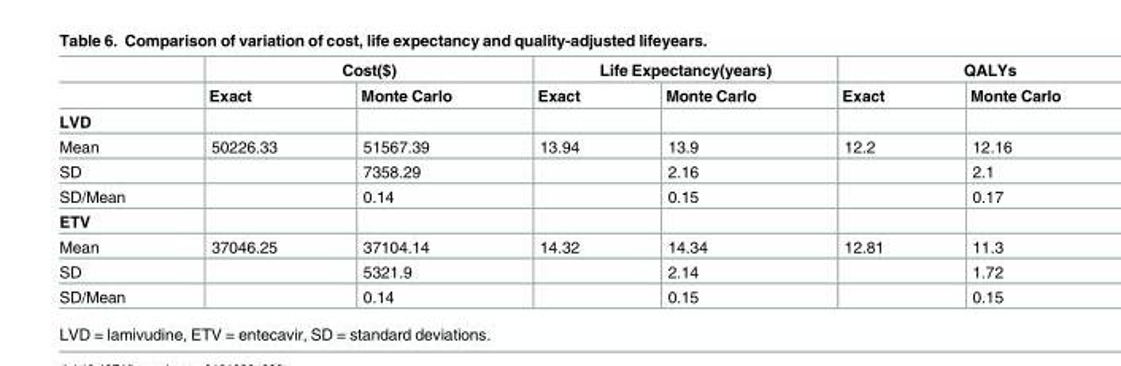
<table><thead><tr><td rowspan="2"></td><td colspan="2">Cost($)</td><td colspan="2">Life Expectancy(years)</td><td colspan="2">QALYs</td></tr><tr><td>Exact</td><td>Monte Carlo</td><td>Exact</td><td>Monte Carlo</td><td>Exact</td><td>Monte Carlo</td></tr></thead><tbody><tr><td colspan="7">LVD</td></tr><tr><td>Mean</td><td>50226.33</td><td>51567.39</td><td>13.94</td><td>13.9</td><td>12.2</td><td>12.16</td></tr><tr><td>SD</td><td></td><td>7358.29</td><td></td><td>2.16</td><td></td><td>2.1</td></tr><tr><td>SD/Mean</td><td></td><td>0.14</td><td></td><td>0.15</td><td></td><td>0.17</td></tr><tr><td colspan="7">ETV</td></tr><tr><td>Mean</td><td>37046.25</td><td>37104.14</td><td>14.32</td><td>14.34</td><td>12.81</td><td>11.3</td></tr><tr><td>SD</td><td></td><td>5321.9</td><td></td><td>2.14</td><td></td><td>1.72</td></tr><tr><td>SD/Mean</td><td></td><td>0.14</td><td></td><td>0.15</td><td></td><td>0.15</td></tr></tbody></table>